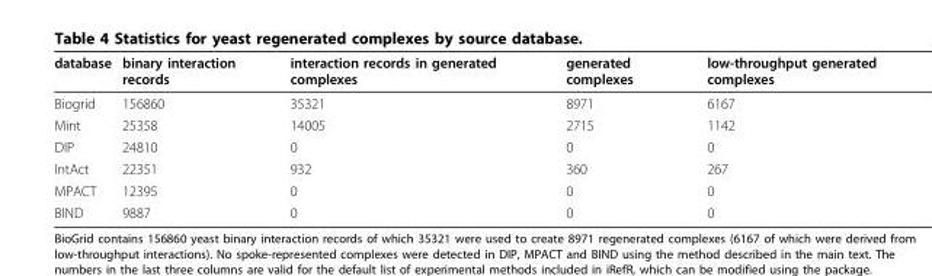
<table><thead><tr><td>database</td><td>binary interaction records</td><td>interaction records in generated complexes</td><td>generated complexes</td><td>low-throughput generated complexes</td></tr></thead><tbody><tr><td>Biogrid</td><td>156860</td><td>35321</td><td>8971</td><td>6167</td></tr><tr><td>Mint</td><td>25358</td><td>14005</td><td>2715</td><td>1142</td></tr><tr><td>DIP</td><td>24810</td><td>0</td><td>0</td><td>0</td></tr><tr><td>IntAct</td><td>22351</td><td>932</td><td>360</td><td>267</td></tr><tr><td>MPACT</td><td>12395</td><td>0</td><td>0</td><td>0</td></tr><tr><td>BIND</td><td>9887</td><td>0</td><td>0</td><td>0</td></tr></tbody></table>